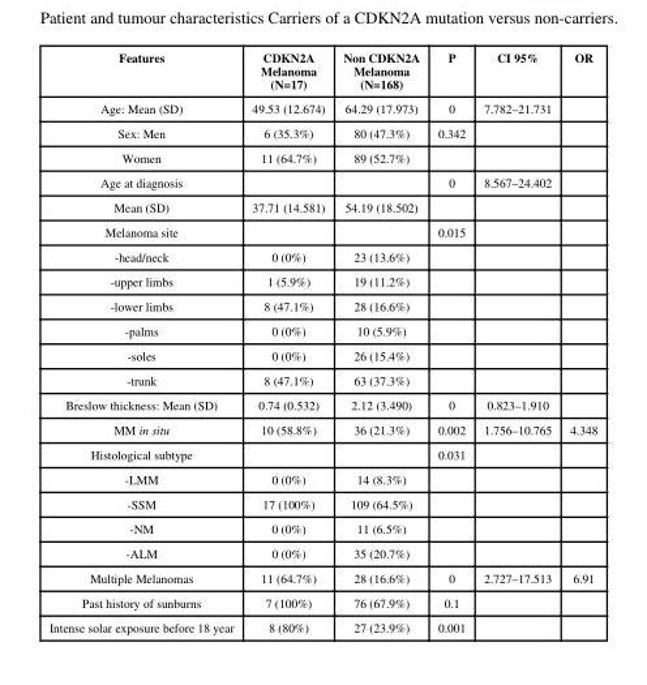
<table><thead><tr><td>Features</td><td>CDKN2A Melanoma (N=17)</td><td>Non CDKN2A Melanoma (N=168)</td><td>P</td><td>CI 95%</td><td>OR</td></tr></thead><tbody><tr><td>Age: Mean (SD)</td><td>49.53 (12.674)</td><td>64.29 (17.973)</td><td>0</td><td>7.782–21.731</td><td></td></tr><tr><td>Sex: Men</td><td>6 (35.3%)</td><td>80 (47.3%)</td><td>0.342</td><td></td><td></td></tr><tr><td>Women</td><td>11 (64.7%)</td><td>89 (52.7%)</td><td></td><td></td><td></td></tr><tr><td>Age at diagnosis</td><td></td><td></td><td>0</td><td>8.567–24.402</td><td></td></tr><tr><td>Mean (SD)</td><td>37.71 (14.581)</td><td>54.19 (18.502)</td><td></td><td></td><td></td></tr><tr><td>Melanoma site</td><td></td><td></td><td>0.015</td><td></td><td></td></tr><tr><td>-head/neck</td><td>0 (0%)</td><td>23 (13.6%)</td><td></td><td></td><td></td></tr><tr><td>-upper limbs</td><td>1 (5.9%)</td><td>19 (11.2%)</td><td></td><td></td><td></td></tr><tr><td>-lower limbs</td><td>8 (47.1%)</td><td>28 (16.6%)</td><td></td><td></td><td></td></tr><tr><td>-palms</td><td>0 (0%)</td><td>10 (5.9%)</td><td></td><td></td><td></td></tr><tr><td>-soles</td><td>0 (0%)</td><td>26 (15.4%)</td><td></td><td></td><td></td></tr><tr><td>-trunk</td><td>8 (47.1%)</td><td>63 (37.3%)</td><td></td><td></td><td></td></tr><tr><td>Breslow thickness: Mean (SD)</td><td>0.74 (0.532)</td><td>2.12 (3.490)</td><td>0</td><td>0.823–1.910</td><td></td></tr><tr><td>MM in situ</td><td>10 (58.8%)</td><td>36 (21.3%)</td><td>0.002</td><td>1.756–10.765</td><td>4.348</td></tr><tr><td>Histological subtype</td><td></td><td></td><td>0.031</td><td></td><td></td></tr><tr><td>-LMM</td><td>0 (0%)</td><td>14 (8.3%)</td><td></td><td></td><td></td></tr><tr><td>-SSM</td><td>17 (100%)</td><td>109 (64.5%)</td><td></td><td></td><td></td></tr><tr><td>-NM</td><td>0 (0%)</td><td>11 (6.5%)</td><td></td><td></td><td></td></tr><tr><td>-ALM</td><td>0 (0%)</td><td>35 (20.7%)</td><td></td><td></td><td></td></tr><tr><td>Multiple Melanomas</td><td>11 (64.7%)</td><td>28 (16.6%)</td><td>0</td><td>2.727–17.513</td><td>6.91</td></tr><tr><td>Past history of sunburns</td><td>7 (100%)</td><td>76 (67.9%)</td><td>0.1</td><td></td><td></td></tr><tr><td>Intense solar exposure before 18 year</td><td>8 (80%)</td><td>27 (23.9%)</td><td>0.001</td><td></td><td></td></tr></tbody></table>